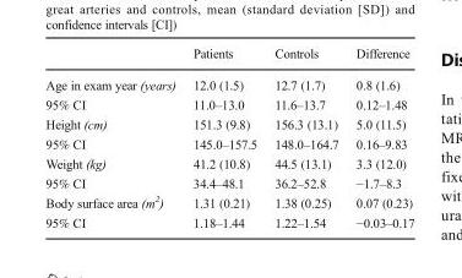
<table><thead><tr><td></td><td>Patients</td><td>Controls</td><td>Difference</td></tr></thead><tbody><tr><td>Age in exam year (years)</td><td>12.0 (1.5)</td><td>12.7 (1.7)</td><td>0.8 (1.6)</td></tr><tr><td>95% CI</td><td>11.0–13.0</td><td>11.6–13.7</td><td>0.12–1.48</td></tr><tr><td>Height (cm)</td><td>151.3 (9.8)</td><td>156.3 (13.1)</td><td>5.0 (11.5)</td></tr><tr><td>95% CI</td><td>145.0–157.5</td><td>148.0–164.7</td><td>0.16–9.83</td></tr><tr><td>Weight (kg)</td><td>41.2 (10.8)</td><td>44.5 (13.1)</td><td>3.3 (12.0)</td></tr><tr><td>95% CI</td><td>34.4–48.1</td><td>36.2–52.8</td><td>−1.7–8.3</td></tr><tr><td>Body surface area (m<sup>2</sup>)</td><td>1.31 (0.21)</td><td>1.38 (0.25)</td><td>0.07 (0.23)</td></tr><tr><td>95% CI</td><td>1.18–1.44</td><td>1.22–1.54</td><td>−0.03–0.17</td></tr></tbody></table>